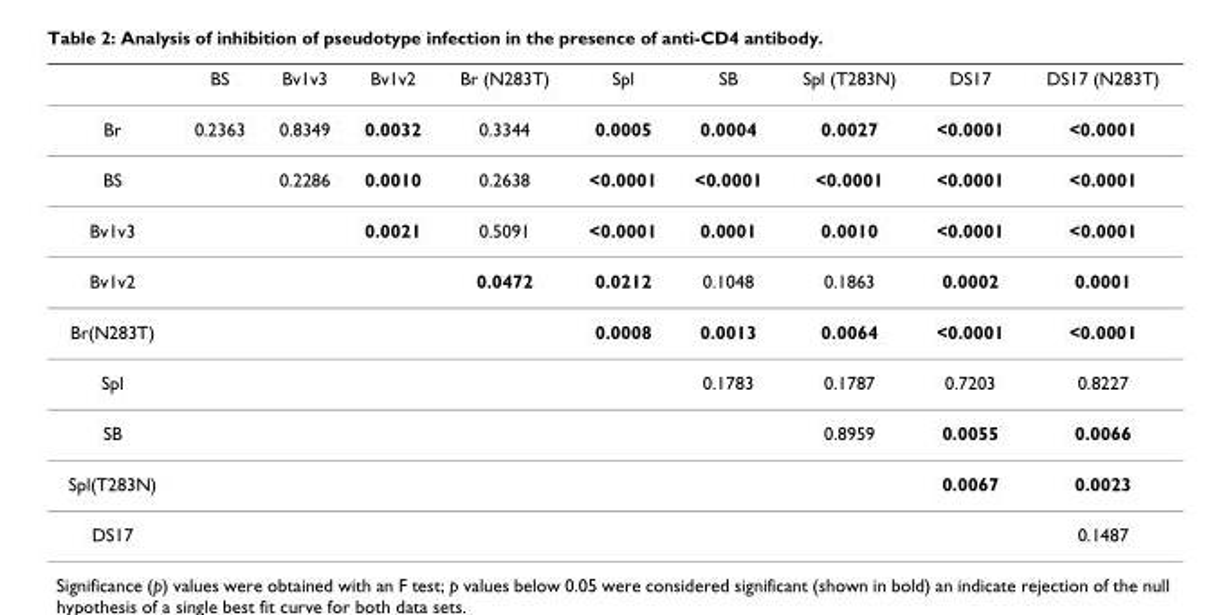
<table><thead><tr><td></td><td>BS</td><td>Bv1v3</td><td>Bv1v2</td><td>Br (N283T)</td><td>Spl</td><td>SB</td><td>Spl (T283N)</td><td>DS17</td><td>DS17 (N283T)</td></tr></thead><tbody><tr><td>Br</td><td>0.2363</td><td>0.8349</td><td>0.0032</td><td>0.3344</td><td>0.0005</td><td>0.0004</td><td>0.0027</td><td>&lt;0.0001</td><td>&lt;0.0001</td></tr><tr><td>BS</td><td></td><td>0.2286</td><td>0.0010</td><td>0.2638</td><td>&lt;0.0001</td><td>&lt;0.0001</td><td>&lt;0.0001</td><td>&lt;0.0001</td><td>&lt;0.0001</td></tr><tr><td>Bv1v3</td><td></td><td></td><td>0.0021</td><td>0.5091</td><td>&lt;0.0001</td><td>0.0001</td><td>0.0010</td><td>&lt;0.0001</td><td>&lt;0.0001</td></tr><tr><td>Bv1v2</td><td></td><td></td><td></td><td>0.0472</td><td>0.0212</td><td>0.1048</td><td>0.1863</td><td>0.0002</td><td>0.0001</td></tr><tr><td>Br(N283T)</td><td></td><td></td><td></td><td></td><td>0.0008</td><td>0.0013</td><td>0.0064</td><td>&lt;0.0001</td><td>&lt;0.0001</td></tr><tr><td>Spl</td><td></td><td></td><td></td><td></td><td></td><td>0.1783</td><td>0.1787</td><td>0.7203</td><td>0.8227</td></tr><tr><td>SB</td><td></td><td></td><td></td><td></td><td></td><td></td><td>0.8959</td><td>0.0055</td><td>0.0066</td></tr><tr><td>Spl(T283N)</td><td></td><td></td><td></td><td></td><td></td><td></td><td></td><td>0.0067</td><td>0.0023</td></tr><tr><td>DS17</td><td></td><td></td><td></td><td></td><td></td><td></td><td></td><td></td><td>0.1487</td></tr></tbody></table>